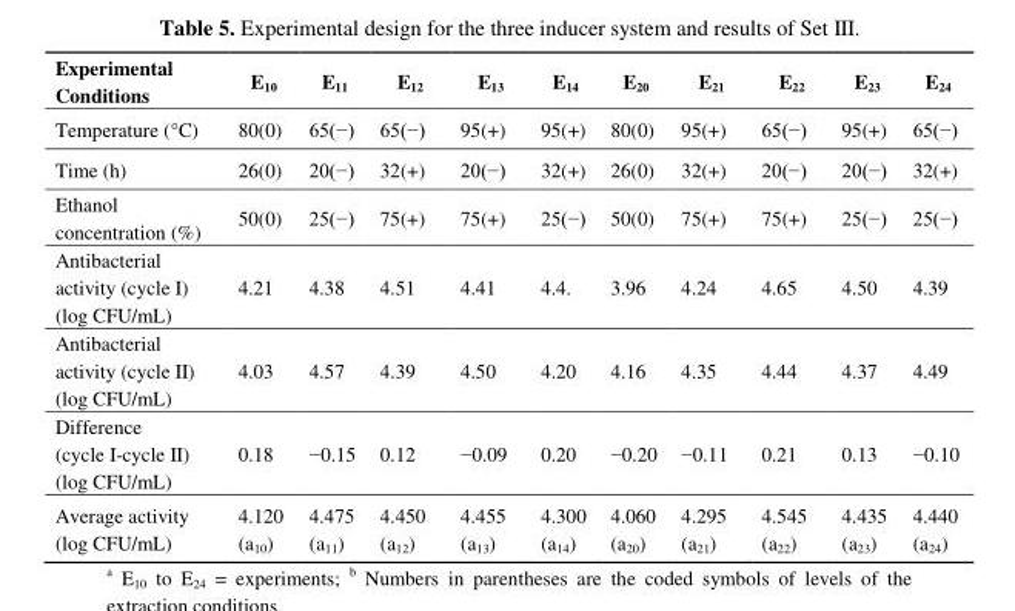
<table><thead><tr><td>Experimental Conditions</td><td>E<sub>10</sub></td><td>E<sub>11</sub></td><td>E<sub>12</sub></td><td>E<sub>13</sub></td><td>E<sub>14</sub></td><td>E<sub>20</sub></td><td>E<sub>21</sub></td><td>E<sub>22</sub></td><td>E<sub>23</sub></td><td>E<sub>24</sub></td></tr></thead><tbody><tr><td>Temperature (°C)</td><td>80(0)</td><td>65(−)</td><td>65(−)</td><td>95(+)</td><td>95(+)</td><td>80(0)</td><td>95(+)</td><td>65(−)</td><td>95(+)</td><td>65(−)</td></tr><tr><td>Time (h)</td><td>26(0)</td><td>20(−)</td><td>32(+)</td><td>20(−)</td><td>32(+)</td><td>26(0)</td><td>32(+)</td><td>20(−)</td><td>20(−)</td><td>32(+)</td></tr><tr><td>Ethanol concentration (%)</td><td>50(0)</td><td>25(−)</td><td>75(+)</td><td>75(+)</td><td>25(−)</td><td>50(0)</td><td>75(+)</td><td>75(+)</td><td>25(−)</td><td>25(−)</td></tr><tr><td>Antibacterial activity (cycle I) (log CFU/mL)</td><td>4.21</td><td>4.38</td><td>4.51</td><td>4.41</td><td>4.4.</td><td>3.96</td><td>4.24</td><td>4.65</td><td>4.50</td><td>4.39</td></tr><tr><td>Antibacterial activity (cycle II) (log CFU/mL)</td><td>4.03</td><td>4.57</td><td>4.39</td><td>4.50</td><td>4.20</td><td>4.16</td><td>4.35</td><td>4.44</td><td>4.37</td><td>4.49</td></tr><tr><td>Difference (cycle I-cycle II) (log CFU/mL)</td><td>0.18</td><td>−0.15</td><td>0.12</td><td>−0.09</td><td>0.20</td><td>−0.20</td><td>−0.11</td><td>0.21</td><td>0.13</td><td>−0.10</td></tr><tr><td>Average activity (log CFU/mL)</td><td>4.120 (a<sub>10</sub>)</td><td>4.475 (a<sub>11</sub>)</td><td>4.450 (a<sub>12</sub>)</td><td>4.455 (a<sub>13</sub>)</td><td>4.300 (a<sub>14</sub>)</td><td>4.060 (a<sub>20</sub>)</td><td>4.295 (a<sub>21</sub>)</td><td>4.545 (a<sub>22</sub>)</td><td>4.435 (a<sub>23</sub>)</td><td>4.440 (a<sub>24</sub>)</td></tr></tbody></table>